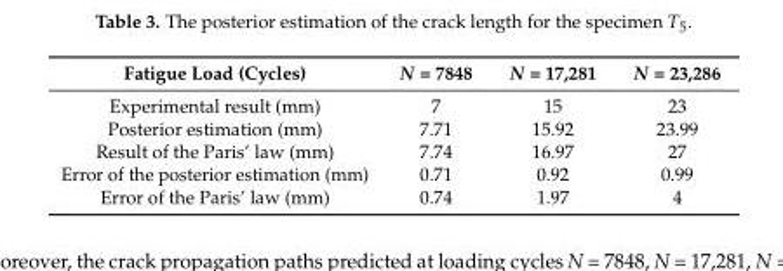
<table><thead><tr><td>Fatigue Load (Cycles)</td><td>N = 7848</td><td>N = 17,281</td><td>N = 23,286</td></tr></thead><tbody><tr><td>Experimental result (mm)</td><td>7</td><td>15</td><td>23</td></tr><tr><td>Posterior estimation (mm)</td><td>7.71</td><td>15.92</td><td>23.99</td></tr><tr><td>Result of the Paris’ law (mm)</td><td>7.74</td><td>16.97</td><td>27</td></tr><tr><td>Error of the posterior estimation (mm)</td><td>0.71</td><td>0.92</td><td>0.99</td></tr><tr><td>Error of the Paris’ law (mm)</td><td>0.74</td><td>1.97</td><td>4</td></tr></tbody></table>